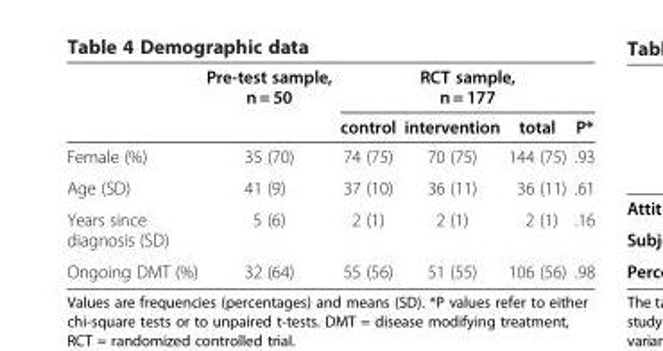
<table><thead><tr><td rowspan="2"></td><td rowspan="2">Pre-test sample, n = 50</td><td colspan="4">RCT sample, n = 177</td></tr><tr><td>control</td><td>intervention</td><td>total</td><td>P*</td></tr></thead><tbody><tr><td>Female (%)</td><td>35 (70)</td><td>74 (75)</td><td>70 (75)</td><td>144 (75)</td><td>.93</td></tr><tr><td>Age (SD)</td><td>41 (9)</td><td>37 (10)</td><td>36 (11)</td><td>36 (11)</td><td>.61</td></tr><tr><td>Years since diagnosis (SD)</td><td>5 (6)</td><td>2 (1)</td><td>2 (1)</td><td>2 (1)</td><td>.16</td></tr><tr><td>Ongoing DMT (%)</td><td>32 (64)</td><td>55 (56)</td><td>51 (55)</td><td>106 (56)</td><td>.98</td></tr></tbody></table>